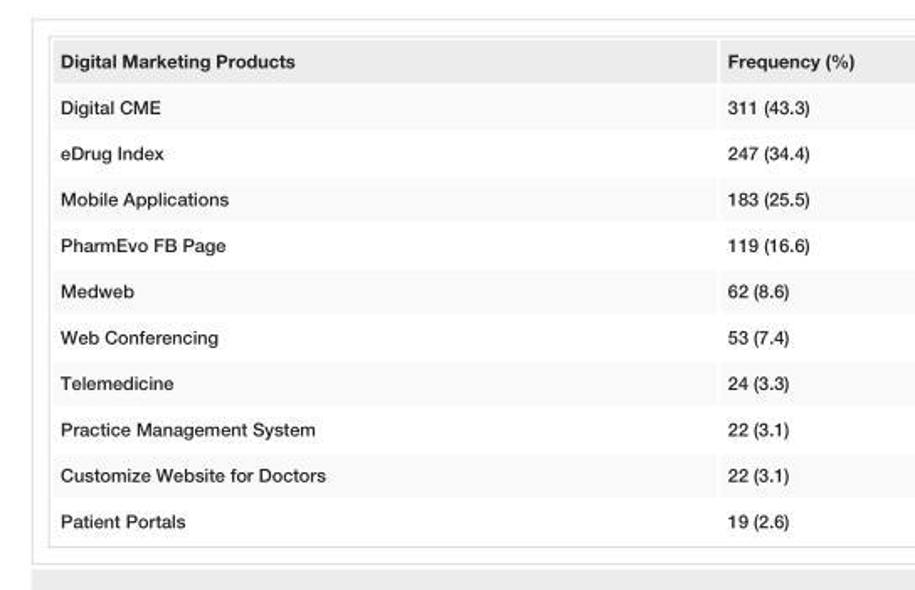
<table><tbody><tr><td>Digital Marketing Products</td><td>Frequency (%)</td></tr><tr><td>Digital CME</td><td>311 (43.3)</td></tr><tr><td>eDrug Index</td><td>247 (34.4)</td></tr><tr><td>Mobile Applications</td><td>183 (25.5)</td></tr><tr><td>PharmEvo FB Page</td><td>119 (16.6)</td></tr><tr><td>Medweb</td><td>62 (8.6)</td></tr><tr><td>Web Conferencing</td><td>53 (7.4)</td></tr><tr><td>Telemedicine</td><td>24 (3.3)</td></tr><tr><td>Practice Management System</td><td>22 (3.1)</td></tr><tr><td>Customize Website for Doctors</td><td>22 (3.1)</td></tr><tr><td>Patient Portals</td><td>19 (2.6)</td></tr></tbody></table>